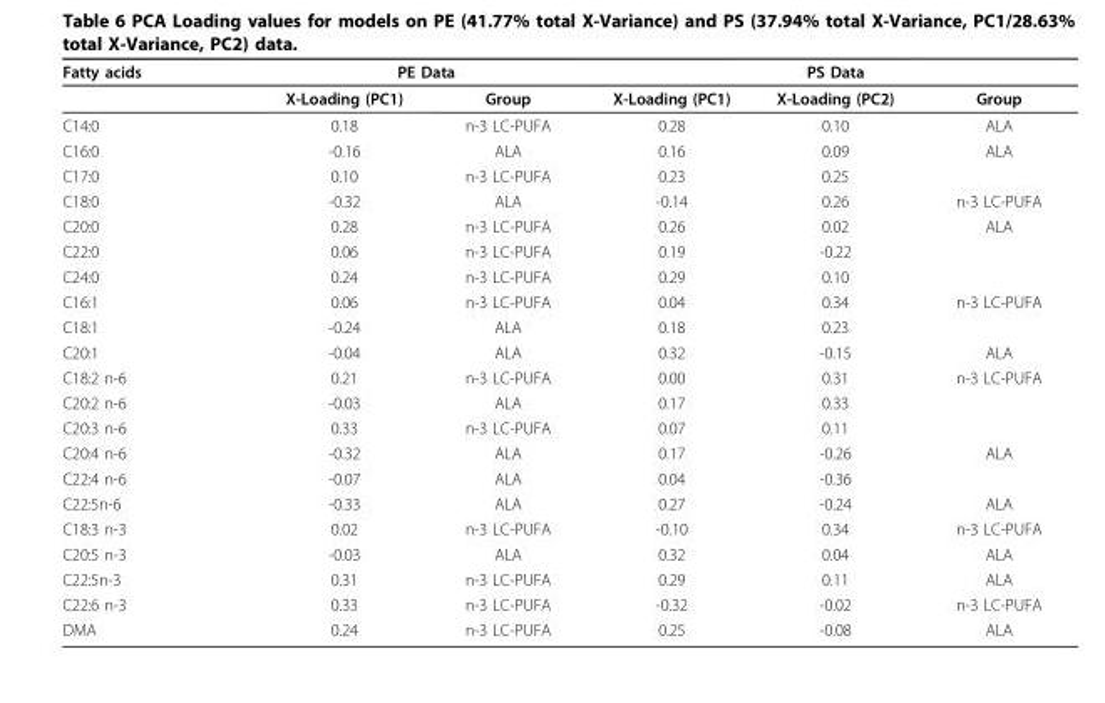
<table><thead><tr><td rowspan="2">Fatty acids</td><td colspan="2">PE Data</td><td colspan="3">PS Data</td></tr><tr><td>X-Loading (PC1)</td><td>Group</td><td>X-Loading (PC1)</td><td>X-Loading (PC2)</td><td>Group</td></tr></thead><tbody><tr><td>C14:0</td><td>0.18</td><td>n-3 LC-PUFA</td><td>0.28</td><td>0.10</td><td>ALA</td></tr><tr><td>C16:0</td><td>-0.16</td><td>ALA</td><td>0.16</td><td>0.09</td><td>ALA</td></tr><tr><td>C17:0</td><td>0.10</td><td>n-3 LC-PUFA</td><td>0.23</td><td>0.25</td><td></td></tr><tr><td>C18:0</td><td>-0.32</td><td>ALA</td><td>-0.14</td><td>0.26</td><td>n-3 LC-PUFA</td></tr><tr><td>C20:0</td><td>0.28</td><td>n-3 LC-PUFA</td><td>0.26</td><td>0.02</td><td>ALA</td></tr><tr><td>C22:0</td><td>0.06</td><td>n-3 LC-PUFA</td><td>0.19</td><td>-0.22</td><td></td></tr><tr><td>C24:0</td><td>0.24</td><td>n-3 LC-PUFA</td><td>0.29</td><td>0.10</td><td></td></tr><tr><td>C16:1</td><td>0.06</td><td>n-3 LC-PUFA</td><td>0.04</td><td>0.34</td><td>n-3 LC-PUFA</td></tr><tr><td>C18:1</td><td>-0.24</td><td>ALA</td><td>0.18</td><td>0.23</td><td></td></tr><tr><td>C20:1</td><td>-0.04</td><td>ALA</td><td>0.32</td><td>-0.15</td><td>ALA</td></tr><tr><td>C18:2 n-6</td><td>0.21</td><td>n-3 LC-PUFA</td><td>0.00</td><td>0.31</td><td>n-3 LC-PUFA</td></tr><tr><td>C20:2 n-6</td><td>-0.03</td><td>ALA</td><td>0.17</td><td>0.33</td><td></td></tr><tr><td>C20:3 n-6</td><td>0.33</td><td>n-3 LC-PUFA</td><td>0.07</td><td>0.11</td><td></td></tr><tr><td>C20:4 n-6</td><td>-0.32</td><td>ALA</td><td>0.17</td><td>-0.26</td><td>ALA</td></tr><tr><td>C22:4 n-6</td><td>-0.07</td><td>ALA</td><td>0.04</td><td>-0.36</td><td></td></tr><tr><td>C22:5n-6</td><td>-0.33</td><td>ALA</td><td>0.27</td><td>-0.24</td><td>ALA</td></tr><tr><td>C18:3 n-3</td><td>0.02</td><td>n-3 LC-PUFA</td><td>-0.10</td><td>0.34</td><td>n-3 LC-PUFA</td></tr><tr><td>C20:5 n-3</td><td>-0.03</td><td>ALA</td><td>0.32</td><td>0.04</td><td>ALA</td></tr><tr><td>C22:5n-3</td><td>0.31</td><td>n-3 LC-PUFA</td><td>0.29</td><td>0.11</td><td>ALA</td></tr><tr><td>C22:6 n-3</td><td>0.33</td><td>n-3 LC-PUFA</td><td>-0.32</td><td>-0.02</td><td>n-3 LC-PUFA</td></tr><tr><td>DMA</td><td>0.24</td><td>n-3 LC-PUFA</td><td>0.25</td><td>-0.08</td><td>ALA</td></tr></tbody></table>